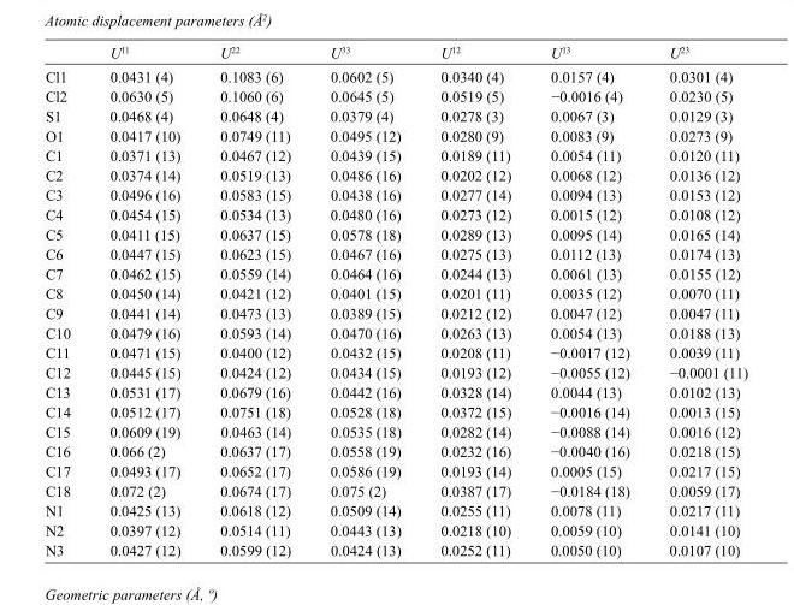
<table><thead><tr><td></td><td>U<sup>11</sup></td><td>U<sup>22</sup></td><td>U<sup>33</sup></td><td>U<sup>12</sup></td><td>U<sup>13</sup></td><td>U<sup>23</sup></td></tr></thead><tbody><tr><td>Cl1</td><td>0.0431 (4)</td><td>0.1083 (6)</td><td>0.0602 (5)</td><td>0.0340 (4)</td><td>0.0157 (4)</td><td>0.0301 (4)</td></tr><tr><td>Cl2</td><td>0.0630 (5)</td><td>0.1060 (6)</td><td>0.0645 (5)</td><td>0.0519 (5)</td><td>−0.0016 (4)</td><td>0.0230 (5)</td></tr><tr><td>S1</td><td>0.0468 (4)</td><td>0.0648 (4)</td><td>0.0379 (4)</td><td>0.0278 (3)</td><td>0.0067 (3)</td><td>0.0129 (3)</td></tr><tr><td>O1</td><td>0.0417 (10)</td><td>0.0749 (11)</td><td>0.0495 (12)</td><td>0.0280 (9)</td><td>0.0083 (9)</td><td>0.0273 (9)</td></tr><tr><td>C1</td><td>0.0371 (13)</td><td>0.0467 (12)</td><td>0.0439 (15)</td><td>0.0189 (11)</td><td>0.0054 (11)</td><td>0.0120 (11)</td></tr><tr><td>C2</td><td>0.0374 (14)</td><td>0.0519 (13)</td><td>0.0486 (16)</td><td>0.0202 (12)</td><td>0.0068 (12)</td><td>0.0136 (12)</td></tr><tr><td>C3</td><td>0.0496 (16)</td><td>0.0583 (15)</td><td>0.0438 (16)</td><td>0.0277 (14)</td><td>0.0094 (13)</td><td>0.0153 (12)</td></tr><tr><td>C4</td><td>0.0454 (15)</td><td>0.0534 (13)</td><td>0.0480 (16)</td><td>0.0273 (12)</td><td>0.0015 (12)</td><td>0.0108 (12)</td></tr><tr><td>C5</td><td>0.0411 (15)</td><td>0.0637 (15)</td><td>0.0578 (18)</td><td>0.0289 (13)</td><td>0.0095 (14)</td><td>0.0165 (14)</td></tr><tr><td>C6</td><td>0.0447 (15)</td><td>0.0623 (15)</td><td>0.0467 (16)</td><td>0.0275 (13)</td><td>0.0112 (13)</td><td>0.0174 (13)</td></tr><tr><td>C7</td><td>0.0462 (15)</td><td>0.0559 (14)</td><td>0.0464 (16)</td><td>0.0244 (13)</td><td>0.0061 (13)</td><td>0.0155 (12)</td></tr><tr><td>C8</td><td>0.0450 (14)</td><td>0.0421 (12)</td><td>0.0401 (15)</td><td>0.0201 (11)</td><td>0.0035 (12)</td><td>0.0070 (11)</td></tr><tr><td>C9</td><td>0.0441 (14)</td><td>0.0473 (13)</td><td>0.0389 (15)</td><td>0.0212 (12)</td><td>0.0047 (12)</td><td>0.0047 (11)</td></tr><tr><td>C10</td><td>0.0479 (16)</td><td>0.0593 (14)</td><td>0.0470 (16)</td><td>0.0263 (13)</td><td>0.0054 (13)</td><td>0.0188 (13)</td></tr><tr><td>C11</td><td>0.0471 (15)</td><td>0.0400 (12)</td><td>0.0432 (15)</td><td>0.0208 (11)</td><td>−0.0017 (12)</td><td>0.0039 (11)</td></tr><tr><td>C12</td><td>0.0445 (15)</td><td>0.0424 (12)</td><td>0.0434 (15)</td><td>0.0193 (12)</td><td>−0.0055 (12)</td><td>−0.0001 (11)</td></tr><tr><td>C13</td><td>0.0531 (17)</td><td>0.0679 (16)</td><td>0.0442 (16)</td><td>0.0328 (14)</td><td>0.0044 (13)</td><td>0.0102 (13)</td></tr><tr><td>C14</td><td>0.0512 (17)</td><td>0.0751 (18)</td><td>0.0528 (18)</td><td>0.0372 (15)</td><td>−0.0016 (14)</td><td>0.0013 (15)</td></tr><tr><td>C15</td><td>0.0609 (19)</td><td>0.0463 (14)</td><td>0.0535 (18)</td><td>0.0282 (14)</td><td>−0.0088 (14)</td><td>0.0016 (12)</td></tr><tr><td>C16</td><td>0.066 (2)</td><td>0.0637 (17)</td><td>0.0558 (19)</td><td>0.0232 (16)</td><td>−0.0040 (16)</td><td>0.0218 (15)</td></tr><tr><td>C17</td><td>0.0493 (17)</td><td>0.0652 (17)</td><td>0.0586 (19)</td><td>0.0193 (14)</td><td>0.0005 (15)</td><td>0.0217 (15)</td></tr><tr><td>C18</td><td>0.072 (2)</td><td>0.0674 (17)</td><td>0.075 (2)</td><td>0.0387 (17)</td><td>−0.0184 (18)</td><td>0.0059 (17)</td></tr><tr><td>N1</td><td>0.0425 (13)</td><td>0.0618 (12)</td><td>0.0509 (14)</td><td>0.0255 (11)</td><td>0.0078 (11)</td><td>0.0217 (11)</td></tr><tr><td>N2</td><td>0.0397 (12)</td><td>0.0514 (11)</td><td>0.0443 (13)</td><td>0.0218 (10)</td><td>0.0059 (10)</td><td>0.0141 (10)</td></tr><tr><td>N3</td><td>0.0427 (12)</td><td>0.0599 (12)</td><td>0.0424 (13)</td><td>0.0252 (11)</td><td>0.0050 (10)</td><td>0.0107 (10)</td></tr></tbody></table>